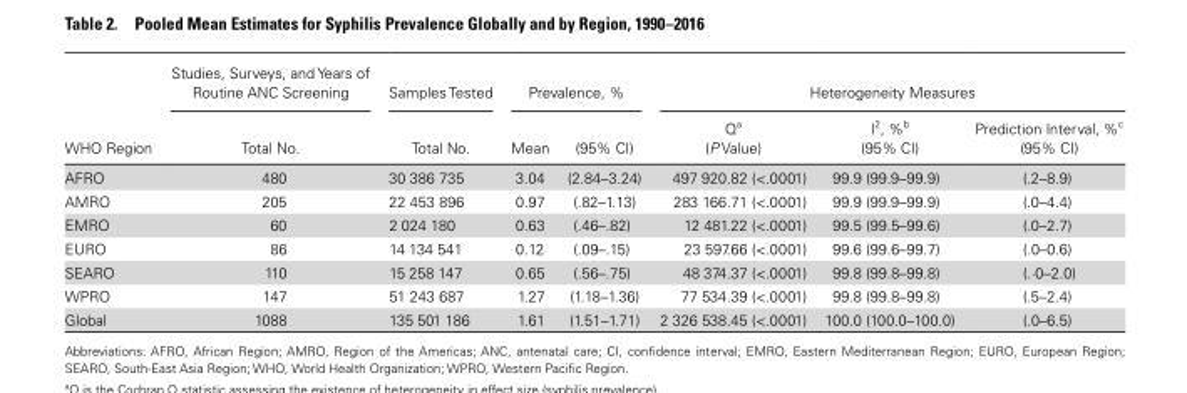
<table><thead><tr><td rowspan="2">WHO Region</td><td rowspan="2">Studies, Surveys, and Years of Routine ANC Screening Total No.</td><td rowspan="2">Samples Tested Total No.</td><td colspan="2">Prevalence, %</td><td colspan="3">Heterogeneity Measures</td></tr><tr><td>Mean</td><td>(95% CI)</td><td>Q<sup>a</sup> (P Value)</td><td>I<sup>2</sup>, %<sup>b</sup> (95% CI)</td><td>Prediction Interval, %<sup>c</sup> (95% CI)</td></tr></thead><tbody><tr><td>AFRO</td><td>480</td><td>30 386 735</td><td>3.04</td><td>(2.84–3.24)</td><td>497 920.82 (&lt;.0001)</td><td>99.9 (99.9–99.9)</td><td>(.2–8.9)</td></tr><tr><td>AMRO</td><td>205</td><td>22 453 896</td><td>0.97</td><td>(.82–1.13)</td><td>283 166.71 (&lt;.0001)</td><td>99.9 (99.9–99.9)</td><td>(.0–4.4)</td></tr><tr><td>EMRO</td><td>60</td><td>2 024 180</td><td>0.63</td><td>(.46–.82)</td><td>12 481.22 (&lt;.0001)</td><td>99.5 (99.5–99.6)</td><td>(.0–2.7)</td></tr><tr><td>EURO</td><td>86</td><td>14 134 541</td><td>0.12</td><td>(.09–.15)</td><td>23 597.66 (&lt;.0001)</td><td>99.6 (99.6–99.7)</td><td>(.0–0.6)</td></tr><tr><td>SEARO</td><td>110</td><td>15 258 147</td><td>0.65</td><td>(.56–.75)</td><td>48 374.37 (&lt;.0001)</td><td>99.8 (99.8–99.8)</td><td>(.·0–2.0)</td></tr><tr><td>WPRO</td><td>147</td><td>51 243 687</td><td>1.27</td><td>(1.18–1.36)</td><td>77 534.39 (&lt;.0001)</td><td>99.8 (99.8–99.8)</td><td>(.5–2.4)</td></tr><tr><td>Global</td><td>1088</td><td>135 501 186</td><td>1.61</td><td>(1.51–1.71)</td><td>2 326 538.45 (&lt;.0001)</td><td>100.0 (100.0–100.0)</td><td>(.0–6.5)</td></tr></tbody></table>